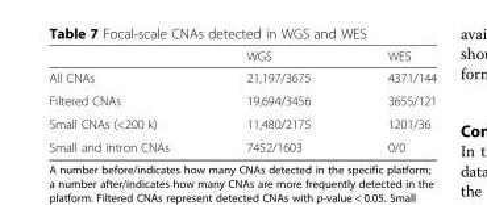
<table><thead><tr><td></td><td>WGS</td><td>WES</td></tr></thead><tbody><tr><td>All CNAs</td><td>21,197/3675</td><td>4371/144</td></tr><tr><td>Filtered CNAs</td><td>19,694/3456</td><td>3655/121</td></tr><tr><td>Small CNAs (&lt;200 k)</td><td>11,480/2175</td><td>1201/36</td></tr><tr><td>Small and intron CNAs</td><td>7452/1603</td><td>0/0</td></tr></tbody></table>